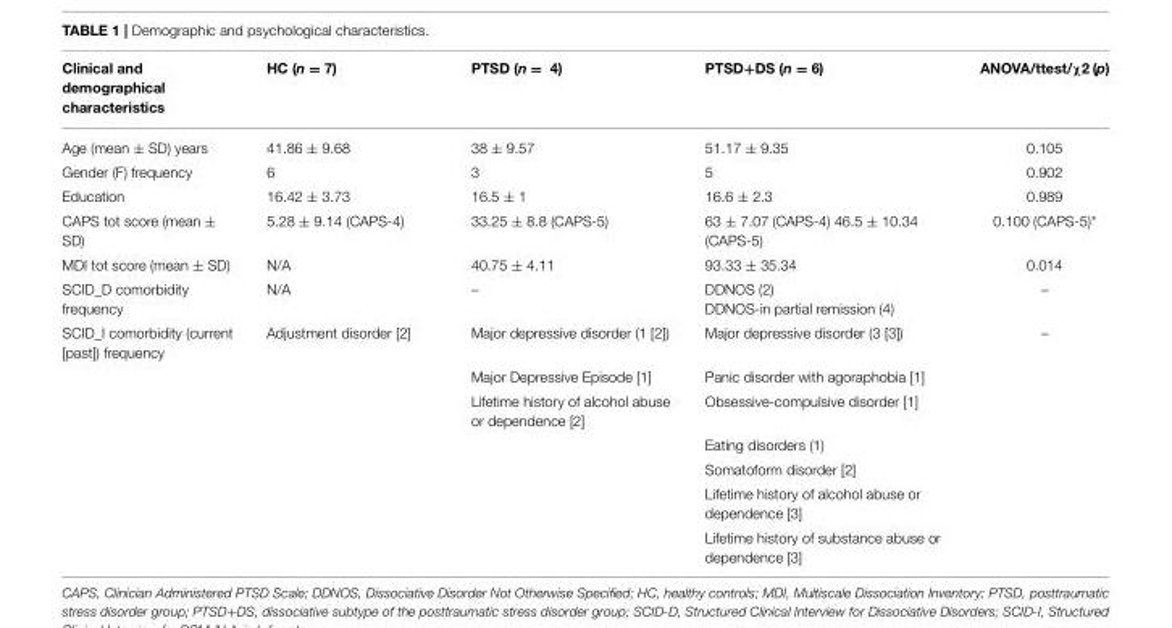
<table><thead><tr><td>Clinical and demographical characteristics</td><td>HC (n = 7)</td><td>PTSD (n = 4)</td><td>PTSD+DS (n = 6)</td><td>ANOVA/ttest/χ2 (p)</td></tr></thead><tbody><tr><td>Age (mean ± SD) years</td><td>41.86 ± 9.68</td><td>38 ± 9.57</td><td>51.17 ± 9.35</td><td>0.105</td></tr><tr><td>Gender (F) frequency</td><td>6</td><td>3</td><td>5</td><td>0.902</td></tr><tr><td>Education</td><td>16.42 ± 3.73</td><td>16.5 ± 1</td><td>16.6 ± 2.3</td><td>0.989</td></tr><tr><td>CAPS tot score (mean ± SD)</td><td>5.28 ± 9.14 (CAPS-4)</td><td>33.25 ± 8.8 (CAPS-5)</td><td>63 ± 7.07 (CAPS-4) 46.5 ± 10.34 (CAPS-5)</td><td>0.100 (CAPS-5)*</td></tr><tr><td>MDI tot score (mean ± SD)</td><td>N/A</td><td>40.75 ± 4.11</td><td>93.33 ± 35.34</td><td>0.014</td></tr><tr><td>SCID_D comorbidity frequency</td><td>N/A</td><td>–</td><td>DDNOS (2) DDNOS-in partial remission (4)</td><td>–</td></tr><tr><td rowspan="7">SCID_I comorbidity (current [past]) frequency</td><td>Adjustment disorder [2]</td><td>Major depressive disorder (1 [2])</td><td>Major depressive disorder (3 [3])</td><td>–</td></tr><tr><td></td><td>Major Depressive Episode [1]</td><td>Panic disorder with agoraphobia [1]</td><td></td></tr><tr><td></td><td>Lifetime history of alcohol abuse or dependence [2]</td><td>Obsessive-compulsive disorder [1]</td><td></td></tr><tr><td></td><td></td><td>Eating disorders (1)</td><td></td></tr><tr><td></td><td></td><td>Somatoform disorder [2]</td><td></td></tr><tr><td></td><td></td><td>Lifetime history of alcohol abuse or dependence [3]</td><td></td></tr><tr><td></td><td></td><td>Lifetime history of substance abuse or dependence [3]</td><td></td></tr></tbody></table>